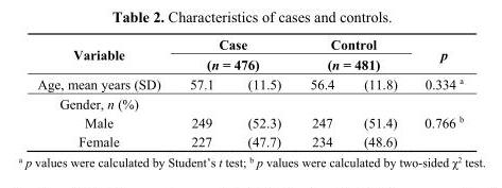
<table><thead><tr><td rowspan="3">Variable Age, mean years (SD)</td><td rowspan="2" colspan="2">Case (n = 476)</td><td rowspan="2" colspan="2">Control (n = 481)</td><td rowspan="3">p 0.334 <sup>a</sup></td></tr><tr></tr><tr><td>57.1</td><td>(11.5)</td><td>56.4</td><td>(11.8)</td></tr></thead><tbody><tr><td colspan="6">Gender, n (%)</td></tr><tr><td>Male</td><td>249</td><td>(52.3)</td><td>247</td><td>(51.4)</td><td>0.766 <sup>b</sup></td></tr><tr><td>Female</td><td>227</td><td>(47.7)</td><td>234</td><td>(48.6)</td><td></td></tr></tbody></table>